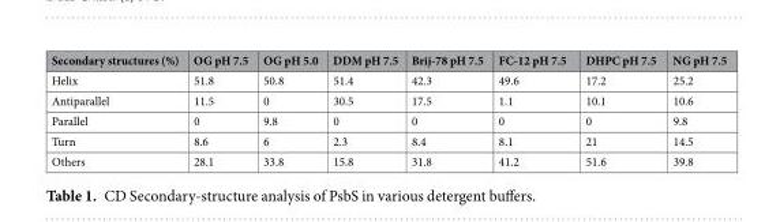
<table><thead><tr><td>Secondary structures (%)</td><td>OG pH 7.5</td><td>OG pH 5.0</td><td>DDM pH 7.5</td><td>Brij-78 pH 7.5</td><td>FC-12 pH 7.5</td><td>DHPC pH 7.5</td><td>NG pH 7.5</td></tr></thead><tbody><tr><td>Helix</td><td>51.8</td><td>50.8</td><td>51.4</td><td>42.3</td><td>49.6</td><td>17.2</td><td>25.2</td></tr><tr><td>Antiparallel</td><td>11.5</td><td>0</td><td>30.5</td><td>17.5</td><td>1.1</td><td>10.1</td><td>10.6</td></tr><tr><td>Parallel</td><td>0</td><td>9.8</td><td>0</td><td>0</td><td>0</td><td>0</td><td>9.8</td></tr><tr><td>Turn</td><td>8.6</td><td>6</td><td>2.3</td><td>8.4</td><td>8.1</td><td>21</td><td>14.5</td></tr><tr><td>Others</td><td>28.1</td><td>33.8</td><td>15.8</td><td>31.8</td><td>41.2</td><td>51.6</td><td>39.8</td></tr></tbody></table>